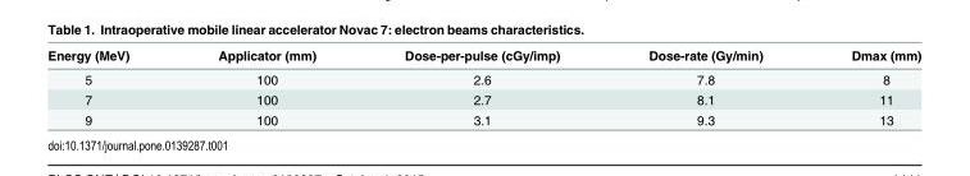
<table><thead><tr><td>Energy (MeV)</td><td>Applicator (mm)</td><td>Dose-per-pulse (cGy/imp)</td><td>Dose-rate (Gy/min)</td><td>Dmax (mm)</td></tr></thead><tbody><tr><td>5</td><td>100</td><td>2.6</td><td>7.8</td><td>8</td></tr><tr><td>7</td><td>100</td><td>2.7</td><td>8.1</td><td>11</td></tr><tr><td>9</td><td>100</td><td>3.1</td><td>9.3</td><td>13</td></tr></tbody></table>